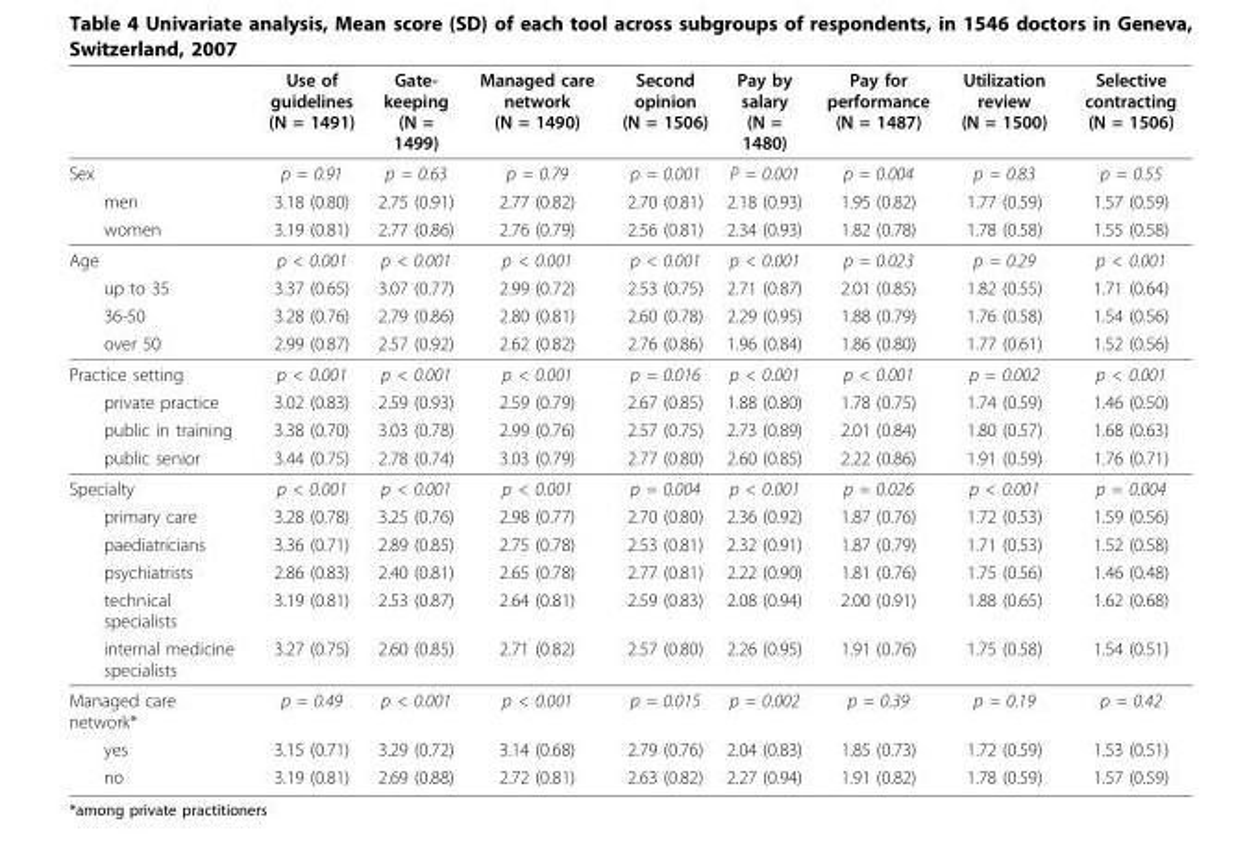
<table><thead><tr><td></td><td>Use of guidelines (N = 1491)</td><td>Gate- keeping (N = 1499)</td><td>Managed care network (N = 1490)</td><td>Second opinion (N = 1506)</td><td>Pay by salary (N = 1480)</td><td>Pay for performance (N = 1487)</td><td>Utilization review (N = 1500)</td><td>Selective contracting (N = 1506)</td></tr></thead><tbody><tr><td>Sex</td><td>p = 0.91</td><td>p = 0.63</td><td>p = 0.79</td><td>p = 0.001</td><td>P = 0.001</td><td>p = 0.004</td><td>p = 0.83</td><td>p = 0.55</td></tr><tr><td>men</td><td>3.18 (0.80)</td><td>2.75 (0.91)</td><td>2.77 (0.82)</td><td>2.70 (0.81)</td><td>2.18 (0.93)</td><td>1.95 (0.82)</td><td>1.77 (0.59)</td><td>1.57 (0.59)</td></tr><tr><td>women</td><td>3.19 (0.81)</td><td>2.77 (0.86)</td><td>2.76 (0.79)</td><td>2.56 (0.81)</td><td>2.34 (0.93)</td><td>1.82 (0.78)</td><td>1.78 (0.58)</td><td>1.55 (0.58)</td></tr><tr><td>Age</td><td>p &lt; 0.001</td><td>p &lt; 0.001</td><td>p &lt; 0.001</td><td>p &lt; 0.001</td><td>p &lt; 0.001</td><td>p = 0.023</td><td>p = 0.29</td><td>p &lt; 0.001</td></tr><tr><td>up to 35</td><td>3.37 (0.65)</td><td>3.07 (0.77)</td><td>2.99 (0.72)</td><td>2.53 (0.75)</td><td>2.71 (0.87)</td><td>2.01 (0.85)</td><td>1.82 (0.55)</td><td>1.71 (0.64)</td></tr><tr><td>36-50</td><td>3.28 (0.76)</td><td>2.79 (0.86)</td><td>2.80 (0.81)</td><td>2.60 (0.78)</td><td>2.29 (0.95)</td><td>1.88 (0.79)</td><td>1.76 (0.58)</td><td>1.54 (0.56)</td></tr><tr><td>over 50</td><td>2.99 (0.87)</td><td>2.57 (0.92)</td><td>2.62 (0.82)</td><td>2.76 (0.86)</td><td>1.96 (0.84)</td><td>1.86 (0.80)</td><td>1.77 (0.61)</td><td>1.52 (0.56)</td></tr><tr><td>Practice setting</td><td>p &lt; 0.001</td><td>p &lt; 0.001</td><td>p &lt; 0.001</td><td>p = 0.016</td><td>p &lt; 0.001</td><td>p &lt; 0.001</td><td>p = 0.002</td><td>p &lt; 0.001</td></tr><tr><td>private practice</td><td>3.02 (0.83)</td><td>2.59 (0.93)</td><td>2.59 (0.79)</td><td>2.67 (0.85)</td><td>1.88 (0.80)</td><td>1.78 (0.75)</td><td>1.74 (0.59)</td><td>1.46 (0.50)</td></tr><tr><td>public in training</td><td>3.38 (0.70)</td><td>3.03 (0.78)</td><td>2.99 (0.76)</td><td>2.57 (0.75)</td><td>2.73 (0.89)</td><td>2.01 (0.84)</td><td>1.80 (0.57)</td><td>1.68 (0.63)</td></tr><tr><td>public senior</td><td>3.44 (0.75)</td><td>2.78 (0.74)</td><td>3.03 (0.79)</td><td>2.77 (0.80)</td><td>2.60 (0.85)</td><td>2.22 (0.86)</td><td>1.91 (0.59)</td><td>1.76 (0.71)</td></tr><tr><td>Specialty</td><td>p &lt; 0.001</td><td>p &lt; 0.001</td><td>p &lt; 0.001</td><td>p = 0.004</td><td>p &lt; 0.001</td><td>p = 0.026</td><td>p &lt; 0.001</td><td>p = 0.004</td></tr><tr><td>primary care</td><td>3.28 (0.78)</td><td>3.25 (0.76)</td><td>2.98 (0.77)</td><td>2.70 (0.80)</td><td>2.36 (0.92)</td><td>1.87 (0.76)</td><td>1.72 (0.53)</td><td>1.59 (0.56)</td></tr><tr><td>paediatricians</td><td>3.36 (0.71)</td><td>2.89 (0.85)</td><td>2.75 (0.78)</td><td>2.53 (0.81)</td><td>2.32 (0.91)</td><td>1.87 (0.79)</td><td>1.71 (0.53)</td><td>1.52 (0.58)</td></tr><tr><td>psychiatrists</td><td>2.86 (0.83)</td><td>2.40 (0.81)</td><td>2.65 (0.78)</td><td>2.77 (0.81)</td><td>2.22 (0.90)</td><td>1.81 (0.76)</td><td>1.75 (0.56)</td><td>1.46 (0.48)</td></tr><tr><td>technical specialists</td><td>3.19 (0.81)</td><td>2.53 (0.87)</td><td>2.64 (0.81)</td><td>2.59 (0.83)</td><td>2.08 (0.94)</td><td>2.00 (0.91)</td><td>1.88 (0.65)</td><td>1.62 (0.68)</td></tr><tr><td>internal medicine specialists</td><td>3.27 (0.75)</td><td>2.60 (0.85)</td><td>2.71 (0.82)</td><td>2.57 (0.80)</td><td>2.26 (0.95)</td><td>1.91 (0.76)</td><td>1.75 (0.58)</td><td>1.54 (0.51)</td></tr><tr><td>Managed care network*</td><td>p = 0.49</td><td>p &lt; 0.001</td><td>p &lt; 0.001</td><td>p = 0.015</td><td>p = 0.002</td><td>p = 0.39</td><td>p = 0.19</td><td>p = 0.42</td></tr><tr><td>yes</td><td>3.15 (0.71)</td><td>3.29 (0.72)</td><td>3.14 (0.68)</td><td>2.79 (0.76)</td><td>2.04 (0.83)</td><td>1.85 (0.73)</td><td>1.72 (0.59)</td><td>1.53 (0.51)</td></tr><tr><td>no</td><td>3.19 (0.81)</td><td>2.69 (0.88)</td><td>2.72 (0.81)</td><td>2.63 (0.82)</td><td>2.27 (0.94)</td><td>1.91 (0.82)</td><td>1.78 (0.59)</td><td>1.57 (0.59)</td></tr></tbody></table>